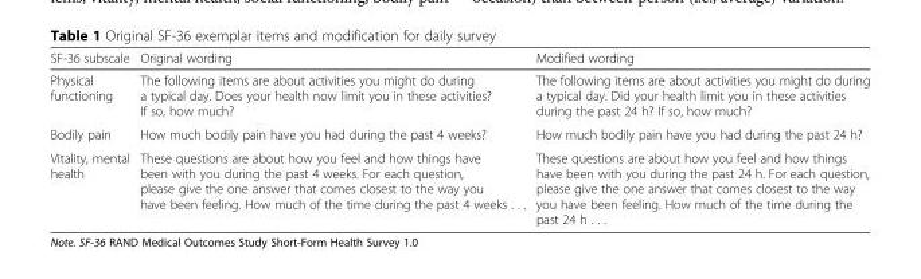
<table><thead><tr><td>SF-36 subscale</td><td>Original wording</td><td>Modified wording</td></tr></thead><tbody><tr><td>Physical functioning</td><td>The following items are about activities you might do during a typical day. Does your health now limit you in these activities? If so, how much?</td><td>The following items are about activities you might do during a typical day. Did your health limit you in these activities during the past 24 h? If so, how much?</td></tr><tr><td>Bodily pain</td><td>How much bodily pain have you had during the past 4 weeks?</td><td>How much bodily pain have you had during the past 24 h?</td></tr><tr><td>Vitality, mental health</td><td>These questions are about how you feel and how things have been with you during the past 4 weeks. For each question, please give the one answer that comes closest to the way you have been feeling. How much of the time during the past 4 weeks . . .</td><td>These questions are about how you feel and how things have been with you during the past 24 h. For each question, please give the one answer that comes closest to the way you have been feeling. How much of the time during the past 24 h . . .</td></tr></tbody></table>